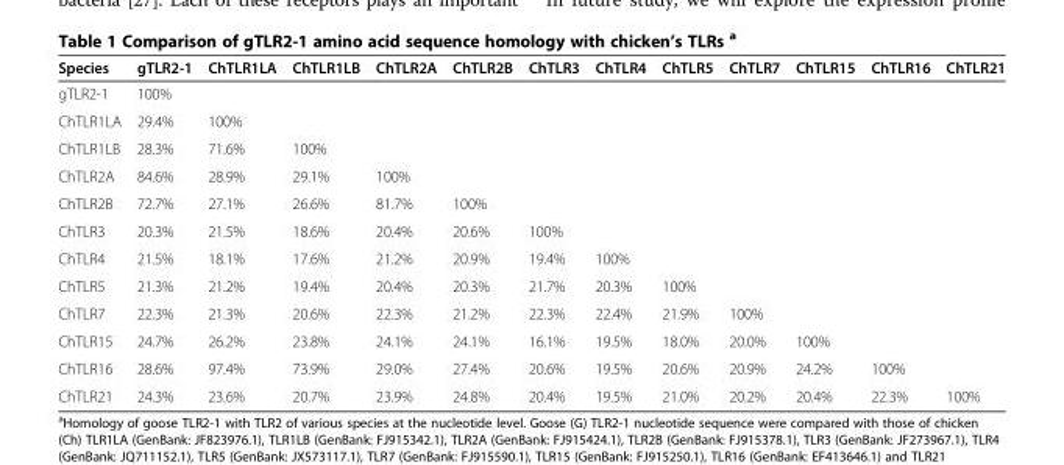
<table><thead><tr><td>Species</td><td>gTLR2-1</td><td>ChTLR1LA</td><td>ChTLR1LB</td><td>ChTLR2A</td><td>ChTLR2B</td><td>ChTLR3</td><td>ChTLR4</td><td>ChTLR5</td><td>ChTLR7</td><td>ChTLR15</td><td>ChTLR16</td><td>ChTLR21</td></tr></thead><tbody><tr><td>gTLR2-1</td><td>100%</td><td></td><td></td><td></td><td></td><td></td><td></td><td></td><td></td><td></td><td></td><td></td></tr><tr><td>ChTLR1LA</td><td>29.4%</td><td>100%</td><td></td><td></td><td></td><td></td><td></td><td></td><td></td><td></td><td></td><td></td></tr><tr><td>ChTLR1LB</td><td>28.3%</td><td>71.6%</td><td>100%</td><td></td><td></td><td></td><td></td><td></td><td></td><td></td><td></td><td></td></tr><tr><td>ChTLR2A</td><td>84.6%</td><td>28.9%</td><td>29.1%</td><td>100%</td><td></td><td></td><td></td><td></td><td></td><td></td><td></td><td></td></tr><tr><td>ChTLR2B</td><td>72.7%</td><td>27.1%</td><td>26.6%</td><td>81.7%</td><td>100%</td><td></td><td></td><td></td><td></td><td></td><td></td><td></td></tr><tr><td>ChTLR3</td><td>20.3%</td><td>21.5%</td><td>18.6%</td><td>20.4%</td><td>20.6%</td><td>100%</td><td></td><td></td><td></td><td></td><td></td><td></td></tr><tr><td>ChTLR4</td><td>21.5%</td><td>18.1%</td><td>17.6%</td><td>21.2%</td><td>20.9%</td><td>19.4%</td><td>100%</td><td></td><td></td><td></td><td></td><td></td></tr><tr><td>ChTLR5</td><td>21.3%</td><td>21.2%</td><td>19.4%</td><td>20.4%</td><td>20.3%</td><td>21.7%</td><td>20.3%</td><td>100%</td><td></td><td></td><td></td><td></td></tr><tr><td>ChTLR7</td><td>22.3%</td><td>21.3%</td><td>20.6%</td><td>22.3%</td><td>21.2%</td><td>22.3%</td><td>22.4%</td><td>21.9%</td><td>100%</td><td></td><td></td><td></td></tr><tr><td>ChTLR15</td><td>24.7%</td><td>26.2%</td><td>23.8%</td><td>24.1%</td><td>24.1%</td><td>16.1%</td><td>19.5%</td><td>18.0%</td><td>20.0%</td><td>100%</td><td></td><td></td></tr><tr><td>ChTLR16</td><td>28.6%</td><td>97.4%</td><td>73.9%</td><td>29.0%</td><td>27.4%</td><td>20.6%</td><td>19.5%</td><td>20.6%</td><td>20.9%</td><td>24.2%</td><td>100%</td><td></td></tr><tr><td>ChTLR21</td><td>24.3%</td><td>23.6%</td><td>20.7%</td><td>23.9%</td><td>24.8%</td><td>20.4%</td><td>19.5%</td><td>21.0%</td><td>20.2%</td><td>20.4%</td><td>22.3%</td><td>100%</td></tr></tbody></table>